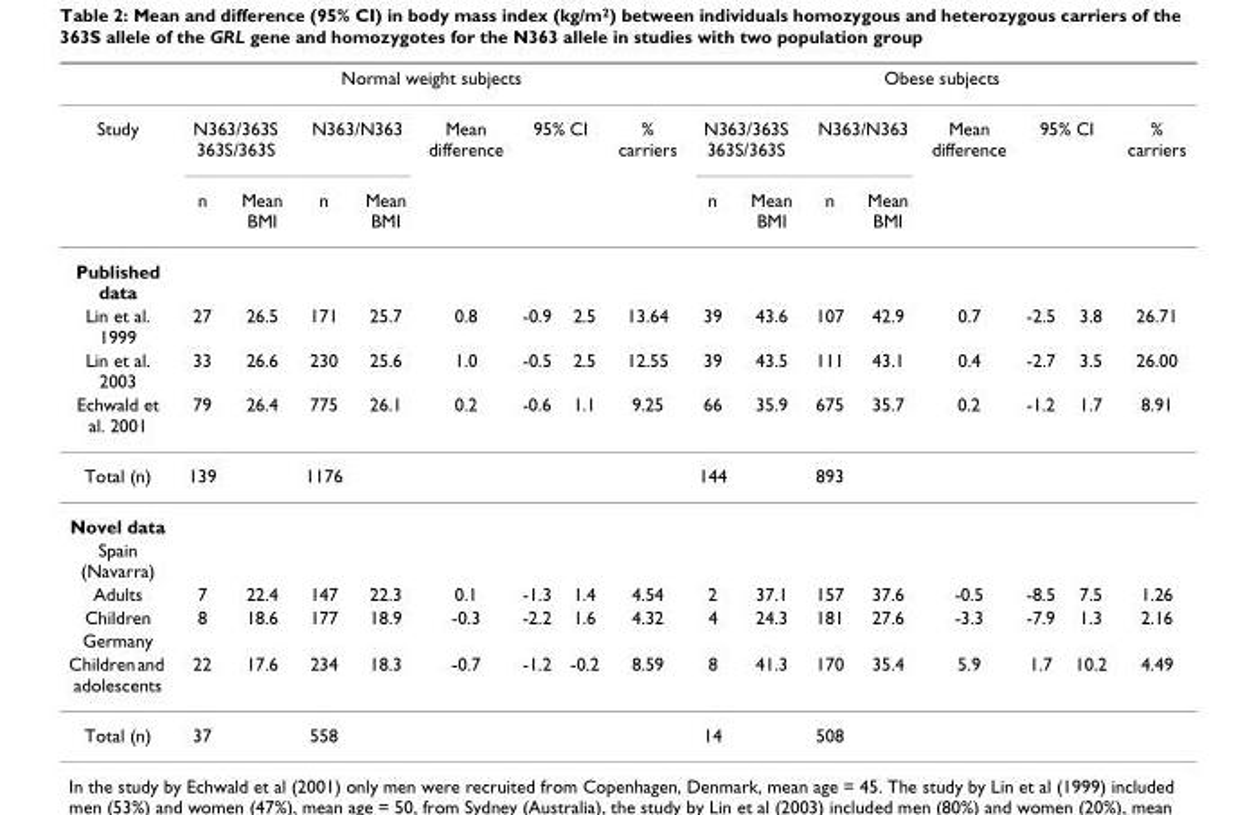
<table><thead><tr><td rowspan="3">Study</td><td colspan="8">Normal weight subjects</td><td colspan="8">Obese subjects</td></tr><tr><td colspan="2">N363/363S 363S/363S</td><td colspan="2">N363/N363</td><td rowspan="2">Mean difference</td><td colspan="2">95% CI</td><td rowspan="2">% carriers</td><td colspan="2">N363/363S 363S/363S</td><td colspan="2">N363/N363</td><td rowspan="2">Mean difference</td><td colspan="2">95% CI</td><td rowspan="2">% carriers</td></tr><tr><td>n</td><td>Mean BMI</td><td>n</td><td>Mean BMI</td><td></td><td></td><td>n</td><td>Mean BMI</td><td>n</td><td>Mean BMI</td><td></td><td></td></tr></thead><tbody><tr><td colspan="17">Published data</td></tr><tr><td>Lin et al. 1999</td><td>27</td><td>26.5</td><td>171</td><td>25.7</td><td>0.8</td><td>-0.9</td><td>2.5</td><td>13.64</td><td>39</td><td>43.6</td><td>107</td><td>42.9</td><td>0.7</td><td>-2.5</td><td>3.8</td><td>26.71</td></tr><tr><td>Lin et al. 2003</td><td>33</td><td>26.6</td><td>230</td><td>25.6</td><td>1.0</td><td>-0.5</td><td>2.5</td><td>12.55</td><td>39</td><td>43.5</td><td>111</td><td>43.1</td><td>0.4</td><td>-2.7</td><td>3.5</td><td>26.00</td></tr><tr><td>Echwald et al. 2001</td><td>79</td><td>26.4</td><td>775</td><td>26.1</td><td>0.2</td><td>-0.6</td><td>1.1</td><td>9.25</td><td>66</td><td>35.9</td><td>675</td><td>35.7</td><td>0.2</td><td>-1.2</td><td>1.7</td><td>8.91</td></tr><tr><td>Total (n)</td><td>139</td><td></td><td>1176</td><td></td><td></td><td></td><td></td><td></td><td>144</td><td></td><td>893</td><td></td><td></td><td></td><td></td><td></td></tr><tr><td colspan="17">Novel data</td></tr><tr><td colspan="17">Spain (Navarra)</td></tr><tr><td>Adults</td><td>7</td><td>22.4</td><td>147</td><td>22.3</td><td>0.1</td><td>-1.3</td><td>1.4</td><td>4.54</td><td>2</td><td>37.1</td><td>157</td><td>37.6</td><td>-0.5</td><td>-8.5</td><td>7.5</td><td>1.26</td></tr><tr><td>Children</td><td>8</td><td>18.6</td><td>177</td><td>18.9</td><td>-0.3</td><td>-2.2</td><td>1.6</td><td>4.32</td><td>4</td><td>24.3</td><td>181</td><td>27.6</td><td>-3.3</td><td>-7.9</td><td>1.3</td><td>2.16</td></tr><tr><td colspan="17">Germany</td></tr><tr><td>Children and adolescents</td><td>22</td><td>17.6</td><td>234</td><td>18.3</td><td>-0.7</td><td>-1.2</td><td>-0.2</td><td>8.59</td><td>8</td><td>41.3</td><td>170</td><td>35.4</td><td>5.9</td><td>1.7</td><td>10.2</td><td>4.49</td></tr><tr><td>Total (n)</td><td>37</td><td></td><td>558</td><td></td><td></td><td></td><td></td><td></td><td>14</td><td></td><td>508</td><td></td><td></td><td></td><td></td><td></td></tr></tbody></table>